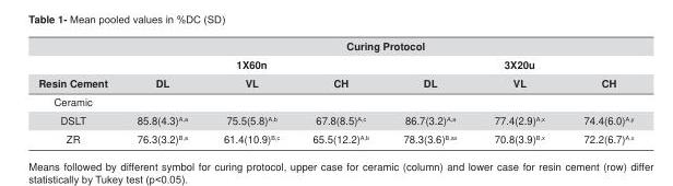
<table><thead><tr><td rowspan="3">Resin Cement</td><td colspan="6">Curing Protocol</td></tr><tr><td colspan="3">1X60n</td><td colspan="3">3X20u</td></tr><tr><td>DL</td><td>VL</td><td>CH</td><td>DL</td><td>VL</td><td>CH</td></tr></thead><tbody><tr><td colspan="7">Ceramic</td></tr><tr><td>DSLT</td><td>85.8(4.3)<sup>A,a</sup></td><td>75.5(5.8)<sup>A,b</sup></td><td>67.8(8.5)<sup>A,c</sup></td><td>86.7(3.2)<sup>A,a</sup></td><td>77.4(2.9)<sup>A,x</sup></td><td>74.4(6.0)<sup>A,y</sup></td></tr><tr><td>ZR</td><td>76.3(3.2)<sup>B,a</sup></td><td>61.4(10.9)<sup>B,c</sup></td><td>65.5(12.2)<sup>A,b</sup></td><td>78.3(3.6)<sup>B,ax</sup></td><td>70.8(3.9)<sup>B,x</sup></td><td>72.2(6.7)<sup>A,x</sup></td></tr></tbody></table>